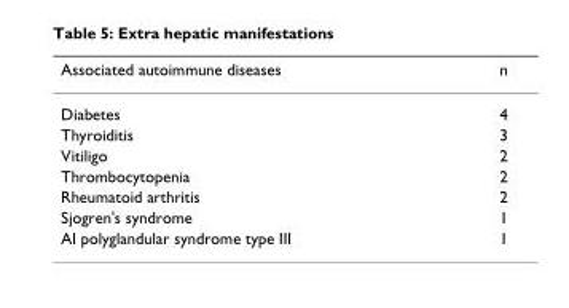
<table><thead><tr><td>Associated autoimmune diseases</td><td>n</td></tr></thead><tbody><tr><td>Diabetes</td><td>4</td></tr><tr><td>Thyroiditis</td><td>3</td></tr><tr><td>Vitiligo</td><td>2</td></tr><tr><td>Thrombocytopenia</td><td>2</td></tr><tr><td>Rheumatoid arthritis</td><td>2</td></tr><tr><td>Sjogren&#x27;s syndrome</td><td>1</td></tr><tr><td>AI polyglandular syndrome type III</td><td>1</td></tr></tbody></table>